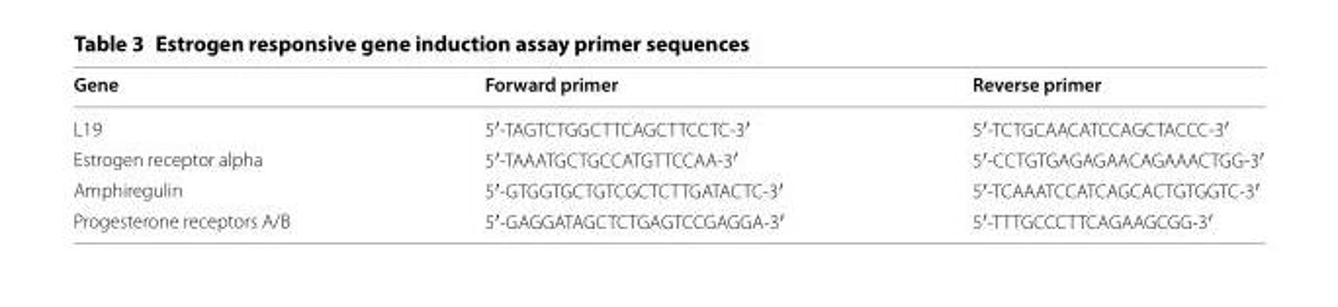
<table><thead><tr><td>Gene</td><td>Forward primer</td><td>Reverse primer</td></tr></thead><tbody><tr><td>L19</td><td>5′-TAGTCTGGCTTCAGCTTCCTC-3′</td><td>5′-TCTGCAACATCCAGCTACCC-3′</td></tr><tr><td>Estrogen receptor alpha</td><td>5′-TAAATGCTGCCATGTTCCAA-3′</td><td>5′-CCTGTGAGAGAACAGAAACTGG-3′</td></tr><tr><td>Amphiregulin</td><td>5′-GTGGTGCTGTCGCTCTTGATACTC-3′</td><td>5′-TCAAATCCATCAGCACTGTGGTC-3′</td></tr><tr><td>Progesterone receptors A/B</td><td>5′-GAGGATAGCTCTGAGTCCGAGGA-3′</td><td>5′-TTTGCCCTTCAGAAGCGG-3′</td></tr></tbody></table>